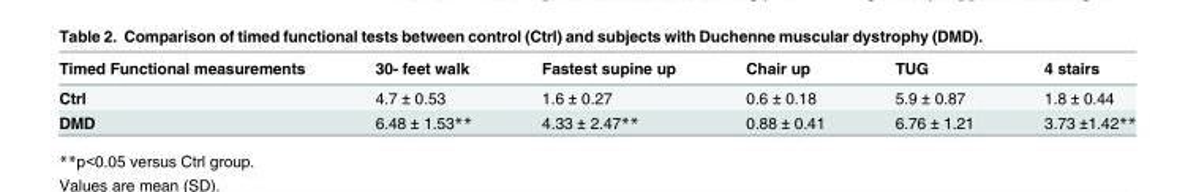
<table><thead><tr><td>Timed Functional measurements</td><td>30- feet walk</td><td>Fastest supine up</td><td>Chair up</td><td>TUG</td><td>4 stairs</td></tr></thead><tbody><tr><td>Ctrl</td><td>4.7 ± 0.53</td><td>1.6 ± 0.27</td><td>0.6 ± 0.18</td><td>5.9 ± 0.87</td><td>1.8 ± 0.44</td></tr><tr><td>DMD</td><td>6.48 ± 1.53**</td><td>4.33 ± 2.47**</td><td>0.88 ± 0.41</td><td>6.76 ± 1.21</td><td>3.73 ±1.42**</td></tr></tbody></table>